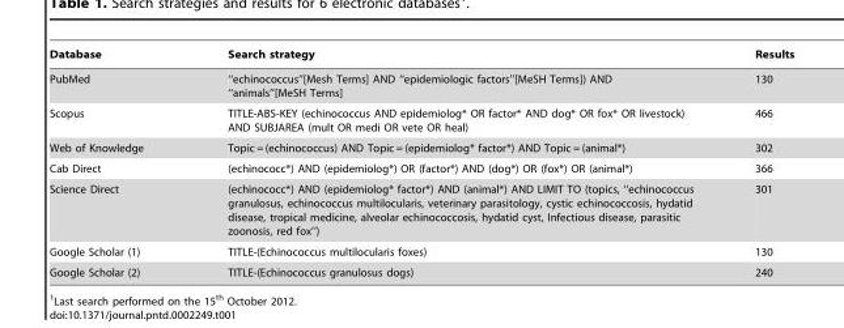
<table><thead><tr><td>Database</td><td>Search strategy</td><td>Results</td></tr></thead><tbody><tr><td>PubMed</td><td>‘‘echinococcus’’[Mesh Terms] AND ‘‘epidemiologic factors’’[MeSH Terms]) AND ‘‘animals’’[MeSH Terms]</td><td>130</td></tr><tr><td>Scopus</td><td>TITLE-ABS-KEY (echinococcus AND epidemiolog* OR factor* AND dog* OR fox* OR livestock) AND SUBJAREA (mult OR medi OR vete OR heal)</td><td>466</td></tr><tr><td>Web of Knowledge</td><td>Topic = (echinococcus) AND Topic = (epidemiolog* factor*) AND Topic = (animal*)</td><td>302</td></tr><tr><td>Cab Direct</td><td>(echinococc*) AND (epidemiolog*) OR (factor*) AND (dog*) OR (fox*) OR (animal*)</td><td>366</td></tr><tr><td>Science Direct</td><td>(echinococc*) AND (epidemiolog* factor*) AND (animal*) AND LIMIT TO (topics, ‘‘echinococcus granulosus, echinococcus multilocularis, veterinary parasitology, cystic echinococcosis, hydatid disease, tropical medicine, alveolar echinococcosis, hydatid cyst, Infectious disease, parasitic zoonosis, red fox’’)</td><td>301</td></tr><tr><td>Google Scholar (1)</td><td>TITLE-(Echinococcus multilocularis foxes)</td><td>130</td></tr><tr><td>Google Scholar (2)</td><td>TITLE-(Echinococcus granulosus dogs)</td><td>240</td></tr></tbody></table>